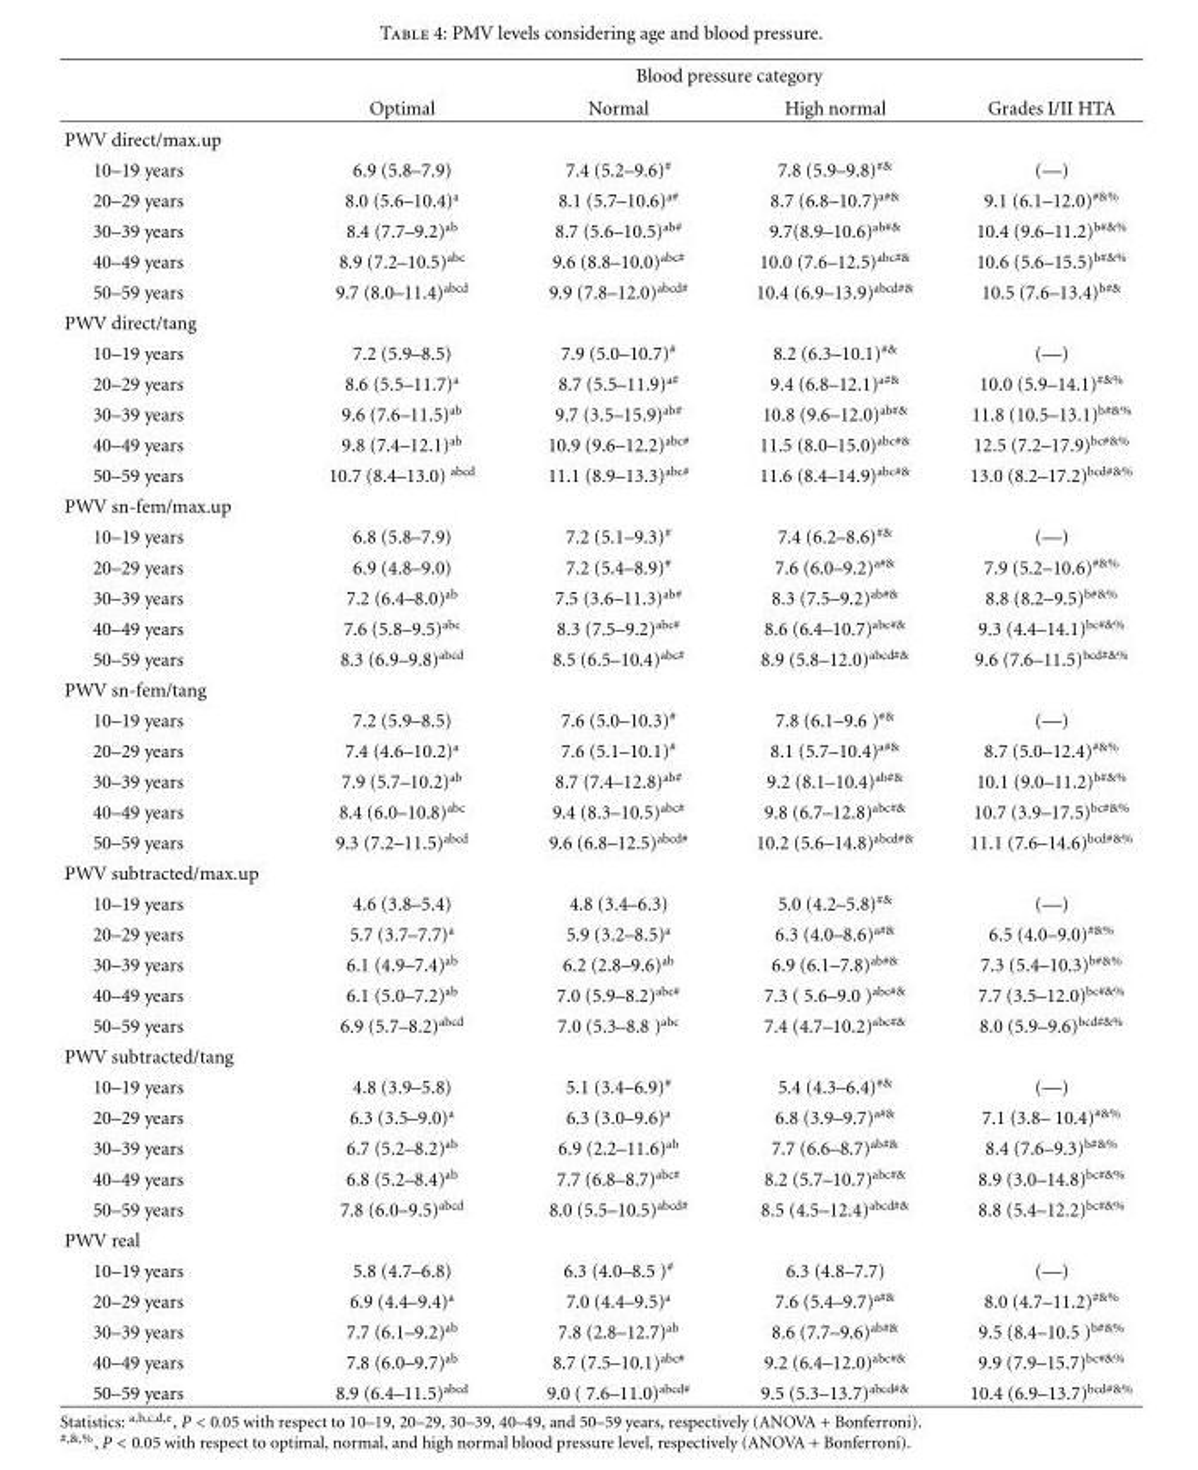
<table><thead><tr><td rowspan="2"></td><td colspan="4">Blood pressure category</td></tr><tr><td>Optimal</td><td>Normal</td><td>High normal</td><td>Grades I/II HTA</td></tr></thead><tbody><tr><td colspan="5">PWV direct/max.up</td></tr><tr><td>10–19 years</td><td>6.9 (5.8–7.9)</td><td>7.4 (5.2–9.6)<sup>#</sup></td><td>7.8 (5.9–9.8)<sup>#&amp;</sup></td><td>(—)</td></tr><tr><td>20–29 years</td><td>8.0 (5.6–10.4)<sup>a</sup></td><td>8.1 (5.7–10.6)<sup>a#</sup></td><td>8.7 (6.8–10.7)<sup>a#&amp;</sup></td><td>9.1 (6.1–12.0)<sup>#&amp;%</sup></td></tr><tr><td>30–39 years</td><td>8.4 (7.7–9.2)<sup>ab</sup></td><td>8.7 (5.6–10.5)<sup>ab#</sup></td><td>9.7(8.9–10.6)<sup>ab#&amp;</sup></td><td>10.4 (9.6–11.2)<sup>b#&amp;%</sup></td></tr><tr><td>40–49 years</td><td>8.9 (7.2–10.5)<sup>abc</sup></td><td>9.6 (8.8–10.0)<sup>abc#</sup></td><td>10.0 (7.6–12.5)<sup>abc#&amp;</sup></td><td>10.6 (5.6–15.5)<sup>b#&amp;%</sup></td></tr><tr><td>50–59 years</td><td>9.7 (8.0–11.4)<sup>abcd</sup></td><td>9.9 (7.8–12.0)<sup>abcd#</sup></td><td>10.4 (6.9–13.9)<sup>abcd#&amp;</sup></td><td>10.5 (7.6–13.4)<sup>b#&amp;</sup></td></tr><tr><td colspan="5">PWV direct/tang</td></tr><tr><td>10–19 years</td><td>7.2 (5.9–8.5)</td><td>7.9 (5.0–10.7)<sup>#</sup></td><td>8.2 (6.3–10.1)<sup>#&amp;</sup></td><td>(—)</td></tr><tr><td>20–29 years</td><td>8.6 (5.5–11.7)<sup>a</sup></td><td>8.7 (5.5–11.9)<sup>a#</sup></td><td>9.4 (6.8–12.1)<sup>a#&amp;</sup></td><td>10.0 (5.9–14.1)<sup>#&amp;%</sup></td></tr><tr><td>30–39 years</td><td>9.6 (7.6–11.5)<sup>ab</sup></td><td>9.7 (3.5–15.9)<sup>ab#</sup></td><td>10.8 (9.6–12.0)<sup>ab#&amp;</sup></td><td>11.8 (10.5–13.1)<sup>b#&amp;%</sup></td></tr><tr><td>40–49 years</td><td>9.8 (7.4–12.1)<sup>ab</sup></td><td>10.9 (9.6–12.2)<sup>abc#</sup></td><td>11.5 (8.0–15.0)<sup>abc#&amp;</sup></td><td>12.5 (7.2–17.9)<sup>bc#&amp;%</sup></td></tr><tr><td>50–59 years</td><td>10.7 (8.4–13.0) <sup>abcd</sup></td><td>11.1 (8.9–13.3)<sup>abc#</sup></td><td>11.6 (8.4–14.9)<sup>abc#&amp;</sup></td><td>13.0 (8.2–17.2)<sup>bcd#&amp;%</sup></td></tr><tr><td colspan="5">PWV sn-fem/max.up</td></tr><tr><td>10–19 years</td><td>6.8 (5.8–7.9)</td><td>7.2 (5.1–9.3)<sup>#</sup></td><td>7.4 (6.2–8.6)<sup>#&amp;</sup></td><td>(—)</td></tr><tr><td>20–29 years</td><td>6.9 (4.8–9.0)</td><td>7.2 (5.4–8.9)<sup>#</sup></td><td>7.6 (6.0–9.2)<sup>a#&amp;</sup></td><td>7.9 (5.2–10.6)<sup>#&amp;%</sup></td></tr><tr><td>30–39 years</td><td>7.2 (6.4–8.0)<sup>ab</sup></td><td>7.5 (3.6–11.3)<sup>ab#</sup></td><td>8.3 (7.5–9.2)<sup>ab#&amp;</sup></td><td>8.8 (8.2–9.5)<sup>b#&amp;%</sup></td></tr><tr><td>40–49 years</td><td>7.6 (5.8–9.5)<sup>abc</sup></td><td>8.3 (7.5–9.2)<sup>abc#</sup></td><td>8.6 (6.4–10.7)<sup>abc#&amp;</sup></td><td>9.3 (4.4–14.1)<sup>bc#&amp;%</sup></td></tr><tr><td>50–59 years</td><td>8.3 (6.9–9.8)<sup>abcd</sup></td><td>8.5 (6.5–10.4)<sup>abc#</sup></td><td>8.9 (5.8–12.0)<sup>abcd#&amp;</sup></td><td>9.6 (7.6–11.5)<sup>bcd#&amp;%</sup></td></tr><tr><td colspan="5">PWV sn-fem/tang</td></tr><tr><td>10–19 years</td><td>7.2 (5.9–8.5)</td><td>7.6 (5.0–10.3)<sup>#</sup></td><td>7.8 (6.1–9.6 )<sup>#&amp;</sup></td><td>(—)</td></tr><tr><td>20–29 years</td><td>7.4 (4.6–10.2)<sup>a</sup></td><td>7.6 (5.1–10.1)<sup>#</sup></td><td>8.1 (5.7–10.4)<sup>a#&amp;</sup></td><td>8.7 (5.0–12.4)<sup>#&amp;%</sup></td></tr><tr><td>30–39 years</td><td>7.9 (5.7–10.2)<sup>ab</sup></td><td>8.7 (7.4–12.8)<sup>ab#</sup></td><td>9.2 (8.1–10.4)<sup>ab#&amp;</sup></td><td>10.1 (9.0–11.2)<sup>b#&amp;%</sup></td></tr><tr><td>40–49 years</td><td>8.4 (6.0–10.8)<sup>abc</sup></td><td>9.4 (8.3–10.5)<sup>abc#</sup></td><td>9.8 (6.7–12.8)<sup>abc#&amp;</sup></td><td>10.7 (3.9–17.5)<sup>bc#&amp;%</sup></td></tr><tr><td>50–59 years</td><td>9.3 (7.2–11.5)<sup>abcd</sup></td><td>9.6 (6.8–12.5)<sup>abcd#</sup></td><td>10.2 (5.6–14.8)<sup>abcd#&amp;</sup></td><td>11.1 (7.6–14.6)<sup>bcd#&amp;%</sup></td></tr><tr><td colspan="5">PWV subtracted/max.up</td></tr><tr><td>10–19 years</td><td>4.6 (3.8–5.4)</td><td>4.8 (3.4–6.3)</td><td>5.0 (4.2–5.8)<sup>#&amp;</sup></td><td>(—)</td></tr><tr><td>20–29 years</td><td>5.7 (3.7–7.7)<sup>a</sup></td><td>5.9 (3.2–8.5)<sup>a</sup></td><td>6.3 (4.0–8.6)<sup>a#&amp;</sup></td><td>6.5 (4.0–9.0)<sup>#&amp;%</sup></td></tr><tr><td>30–39 years</td><td>6.1 (4.9–7.4)<sup>ab</sup></td><td>6.2 (2.8–9.6)<sup>ab</sup></td><td>6.9 (6.1–7.8)<sup>ab#&amp;</sup></td><td>7.3 (5.4–10.3)<sup>b#&amp;%</sup></td></tr><tr><td>40–49 years</td><td>6.1 (5.0–7.2)<sup>ab</sup></td><td>7.0 (5.9–8.2)<sup>abc#</sup></td><td>7.3 ( 5.6–9.0 )<sup>abc#&amp;</sup></td><td>7.7 (3.5–12.0)<sup>bc#&amp;%</sup></td></tr><tr><td>50–59 years</td><td>6.9 (5.7–8.2)<sup>abcd</sup></td><td>7.0 (5.3–8.8 )<sup>abc</sup></td><td>7.4 (4.7–10.2)<sup>abc#&amp;</sup></td><td>8.0 (5.9–9.6)<sup>bcd#&amp;%</sup></td></tr><tr><td colspan="5">PWV subtracted/tang</td></tr><tr><td>10–19 years</td><td>4.8 (3.9–5.8)</td><td>5.1 (3.4–6.9)<sup>#</sup></td><td>5.4 (4.3–6.4)<sup>#&amp;</sup></td><td>(—)</td></tr><tr><td>20–29 years</td><td>6.3 (3.5–9.0)<sup>a</sup></td><td>6.3 (3.0–9.6)<sup>a</sup></td><td>6.8 (3.9–9.7)<sup>a#&amp;</sup></td><td>7.1 (3.8– 10.4)<sup>#&amp;%</sup></td></tr><tr><td>30–39 years</td><td>6.7 (5.2–8.2)<sup>ab</sup></td><td>6.9 (2.2–11.6)<sup>ab</sup></td><td>7.7 (6.6–8.7)<sup>ab#&amp;</sup></td><td>8.4 (7.6–9.3)<sup>b#&amp;%</sup></td></tr><tr><td>40–49 years</td><td>6.8 (5.2–8.4)<sup>ab</sup></td><td>7.7 (6.8–8.7)<sup>abc#</sup></td><td>8.2 (5.7–10.7)<sup>abc#&amp;</sup></td><td>8.9 (3.0–14.8)<sup>bc#&amp;%</sup></td></tr><tr><td>50–59 years</td><td>7.8 (6.0–9.5)<sup>abcd</sup></td><td>8.0 (5.5–10.5)<sup>abcd#</sup></td><td>8.5 (4.5–12.4)<sup>abcd#&amp;</sup></td><td>8.8 (5.4–12.2)<sup>bc#&amp;%</sup></td></tr><tr><td colspan="5">PWV real</td></tr><tr><td>10–19 years</td><td>5.8 (4.7–6.8)</td><td>6.3 (4.0–8.5 )<sup>#</sup></td><td>6.3 (4.8–7.7)</td><td>(—)</td></tr><tr><td>20–29 years</td><td>6.9 (4.4–9.4)<sup>a</sup></td><td>7.0 (4.4–9.5)<sup>a</sup></td><td>7.6 (5.4–9.7)<sup>a#&amp;</sup></td><td>8.0 (4.7–11.2)<sup>#&amp;%</sup></td></tr><tr><td>30–39 years</td><td>7.7 (6.1–9.2)<sup>ab</sup></td><td>7.8 (2.8–12.7)<sup>ab</sup></td><td>8.6 (7.7–9.6)<sup>ab#&amp;</sup></td><td>9.5 (8.4–10.5 )<sup>b#&amp;%</sup></td></tr><tr><td>40–49 years</td><td>7.8 (6.0–9.7)<sup>ab</sup></td><td>8.7 (7.5–10.1)<sup>abc#</sup></td><td>9.2 (6.4–12.0)<sup>abc#&amp;</sup></td><td>9.9 (7.9–15.7)<sup>bc#&amp;%</sup></td></tr><tr><td>50–59 years</td><td>8.9 (6.4–11.5)<sup>abcd</sup></td><td>9.0 ( 7.6–11.0)<sup>abcd#</sup></td><td>9.5 (5.3–13.7)<sup>abcd#&amp;</sup></td><td>10.4 (6.9–13.7)<sup>bcd#&amp;%</sup></td></tr></tbody></table>